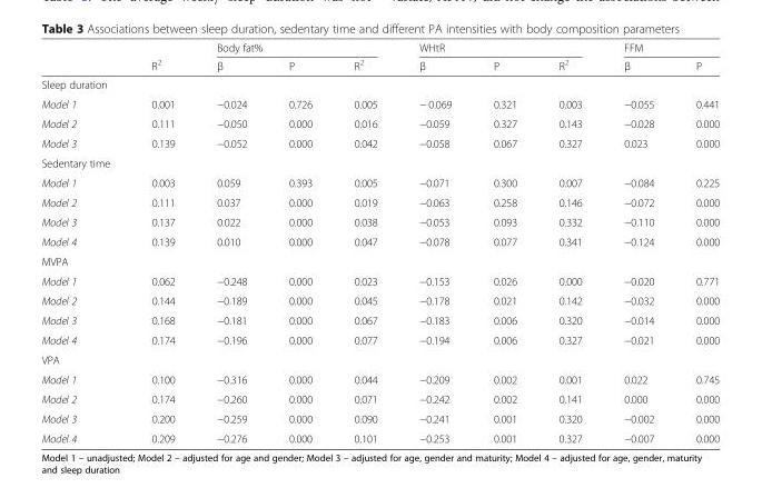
<table><thead><tr><td rowspan="2"></td><td rowspan="2">R<sup>2</sup></td><td colspan="3">Body fat%</td><td colspan="3">WHtR</td><td colspan="2">FFM</td></tr><tr><td>β</td><td>P</td><td>R<sup>2</sup></td><td>β</td><td>P</td><td>R<sup>2</sup></td><td>β</td><td>P</td></tr></thead><tbody><tr><td colspan="10">Sleep duration</td></tr><tr><td>Model 1</td><td>0.001</td><td>−0.024</td><td>0.726</td><td>0.005</td><td>− 0.069</td><td>0.321</td><td>0.003</td><td>−0.055</td><td>0.441</td></tr><tr><td>Model 2</td><td>0.111</td><td>−0.050</td><td>0.000</td><td>0.016</td><td>−0.059</td><td>0.327</td><td>0.143</td><td>−0.028</td><td>0.000</td></tr><tr><td>Model 3</td><td>0.139</td><td>−0.052</td><td>0.000</td><td>0.042</td><td>−0.058</td><td>0.067</td><td>0.327</td><td>0.023</td><td>0.000</td></tr><tr><td colspan="10">Sedentary time</td></tr><tr><td>Model 1</td><td>0.003</td><td>0.059</td><td>0.393</td><td>0.005</td><td>−0.071</td><td>0.300</td><td>0.007</td><td>−0.084</td><td>0.225</td></tr><tr><td>Model 2</td><td>0.111</td><td>0.037</td><td>0.000</td><td>0.019</td><td>−0.063</td><td>0.258</td><td>0.146</td><td>−0.072</td><td>0.000</td></tr><tr><td>Model 3</td><td>0.137</td><td>0.022</td><td>0.000</td><td>0.038</td><td>−0.053</td><td>0.093</td><td>0.332</td><td>−0.110</td><td>0.000</td></tr><tr><td>Model 4</td><td>0.139</td><td>0.010</td><td>0.000</td><td>0.047</td><td>−0.078</td><td>0.077</td><td>0.341</td><td>−0.124</td><td>0.000</td></tr><tr><td colspan="10">MVPA</td></tr><tr><td>Model 1</td><td>0.062</td><td>−0.248</td><td>0.000</td><td>0.023</td><td>−0.153</td><td>0.026</td><td>0.000</td><td>−0.020</td><td>0.771</td></tr><tr><td>Model 2</td><td>0.144</td><td>−0.189</td><td>0.000</td><td>0.045</td><td>−0.178</td><td>0.021</td><td>0.142</td><td>−0.032</td><td>0.000</td></tr><tr><td>Model 3</td><td>0.168</td><td>−0.181</td><td>0.000</td><td>0.067</td><td>−0.183</td><td>0.006</td><td>0.320</td><td>−0.014</td><td>0.000</td></tr><tr><td>Model 4</td><td>0.174</td><td>−0.196</td><td>0.000</td><td>0.077</td><td>−0.194</td><td>0.006</td><td>0.327</td><td>−0.021</td><td>0.000</td></tr><tr><td colspan="10">VPA</td></tr><tr><td>Model 1</td><td>0.100</td><td>−0.316</td><td>0.000</td><td>0.044</td><td>−0.209</td><td>0.002</td><td>0.001</td><td>0.022</td><td>0.745</td></tr><tr><td>Model 2</td><td>0.174</td><td>−0.260</td><td>0.000</td><td>0.071</td><td>−0.242</td><td>0.002</td><td>0.141</td><td>0.000</td><td>0.000</td></tr><tr><td>Model 3</td><td>0.200</td><td>−0.259</td><td>0.000</td><td>0.090</td><td>−0.241</td><td>0.001</td><td>0.320</td><td>−0.002</td><td>0.000</td></tr><tr><td>Model 4</td><td>0.209</td><td>−0.276</td><td>0.000</td><td>0.101</td><td>−0.253</td><td>0.001</td><td>0.327</td><td>−0.007</td><td>0.000</td></tr></tbody></table>